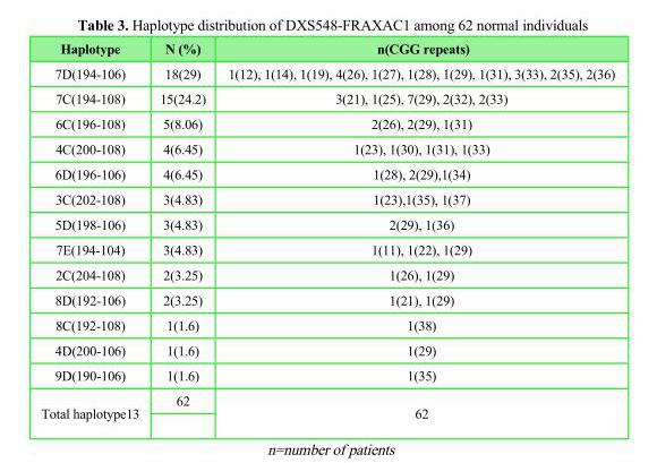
<table><thead><tr><td>Haplotype</td><td>N (%)</td><td>n(CGG repeats)</td></tr></thead><tbody><tr><td>7D(194-106)</td><td>18(29)</td><td>1(12), 1(14), 1(19), 4(26), 1(27), 1(28), 1(29), 1(31), 3(33), 2(35), 2(36)</td></tr><tr><td>7C(194-108)</td><td>15(24.2)</td><td>3(21), 1(25), 7(29), 2(32), 2(33)</td></tr><tr><td>6C(196-108)</td><td>5(8.06)</td><td>2(26), 2(29), 1(31)</td></tr><tr><td>4C(200-108)</td><td>4(6.45)</td><td>1(23), 1(30), 1(31), 1(33)</td></tr><tr><td>6D(196-106)</td><td>4(6.45)</td><td>1(28), 2(29),1(34)</td></tr><tr><td>3C(202-108)</td><td>3(4.83)</td><td>1(23),1(35), 1(37)</td></tr><tr><td>5D(198-106)</td><td>3(4.83)</td><td>2(29), 1(36)</td></tr><tr><td>7E(194-104)</td><td>3(4.83)</td><td>1(11), 1(22), 1(29)</td></tr><tr><td>2C(204-108)</td><td>2(3.25)</td><td>1(26), 1(29)</td></tr><tr><td>8D(192-106)</td><td>2(3.25)</td><td>1(21), 1(29)</td></tr><tr><td>8C(192-108)</td><td>1(1.6)</td><td>1(38)</td></tr><tr><td>4D(200-106)</td><td>1(1.6)</td><td>1(29)</td></tr><tr><td>9D(190-106)</td><td>1(1.6)</td><td>1(35)</td></tr><tr><td>Total haplotype13</td><td>62</td><td>62</td></tr></tbody></table>